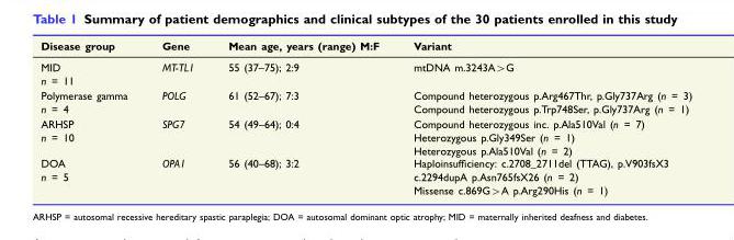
<table><thead><tr><td>Disease group</td><td>Gene</td><td>Mean age, years (range) M:F</td><td>Variant</td></tr></thead><tbody><tr><td>MID n = 11</td><td>MT-TL1</td><td>55 (37–75); 2:9</td><td>mtDNA m.3243A&gt;G</td></tr><tr><td>Polymerase gamma n = 4</td><td>POLG</td><td>61 (52–67); 7:3</td><td>Compound heterozygous p.Arg467Thr, p.Gly737Arg (n = 3) Compound heterozygous p.Trp748Ser, p.Gly737Arg (n = 1)</td></tr><tr><td>ARHSP n = 10</td><td>SPG7</td><td>54 (49–64); 0:4</td><td>Compound heterozygous inc. p.Ala510Val (n = 7) Heterozygous p.Gly349Ser (n = 1) Heterozygous p.Ala510Val (n = 2)</td></tr><tr><td>DOA n = 5</td><td>OPA1</td><td>56 (40–68); 3:2</td><td>Haploinsufficiency: c.2708_2711del (TTAG), p.V903fsX3 c.2294dupA p.Asn765fsX26 (n = 2) Missense c.869G&gt;A p.Arg290His (n = 1)</td></tr></tbody></table>